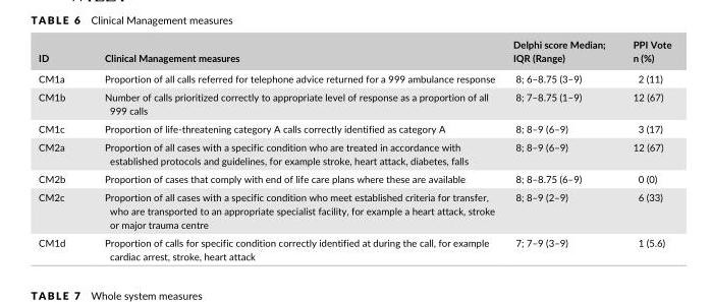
<table><thead><tr><td>ID</td><td>Clinical Management measures</td><td>Delphi score Median; IQR (Range)</td><td>PPI Vote n (%)</td></tr></thead><tbody><tr><td>CM1a</td><td>Proportion of all calls referred for telephone advice returned for a 999 ambulance response</td><td>8; 6–8.75 (3–9)</td><td>2 (11)</td></tr><tr><td>CM1b</td><td>Number of calls prioritized correctly to appropriate level of response as a proportion of all 999 calls</td><td>8; 7–8.75 (1–9)</td><td>12 (67)</td></tr><tr><td>CM1c</td><td>Proportion of life- threatening category A calls correctly identified as category A</td><td>8; 8–9 (6–9)</td><td>3 (17)</td></tr><tr><td>CM2a</td><td>Proportion of all cases with a specific condition who are treated in accordance with established protocols and guidelines, for example stroke, heart attack, diabetes, falls</td><td>8; 8–9 (6–9)</td><td>12 (67)</td></tr><tr><td>CM2b</td><td>Proportion of cases that comply with end of life care plans where these are available</td><td>8; 8–8.75 (6–9)</td><td>0 (0)</td></tr><tr><td>CM2c</td><td>Proportion of all cases with a specific condition who meet established criteria for transfer, who are transported to an appropriate specialist facility, for example a heart attack, stroke or major trauma centre</td><td>8; 8–9 (2–9)</td><td>6 (33)</td></tr><tr><td>CM1d</td><td>Proportion of calls for specific condition correctly identified at during the call, for example cardiac arrest, stroke, heart attack</td><td>7; 7–9 (3–9)</td><td>1 (5.6)</td></tr></tbody></table>